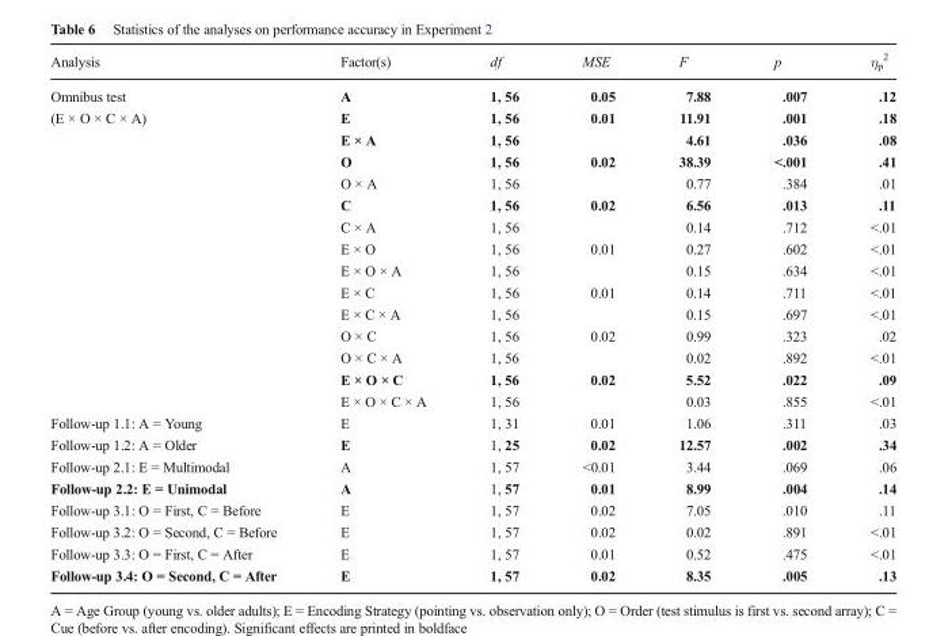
<table><thead><tr><td>Analysis</td><td>Factor(s)</td><td>df</td><td>MSE</td><td>F</td><td>p</td><td>η<sub>p</sub> <sup>2</sup></td></tr></thead><tbody><tr><td>Omnibus test</td><td>A</td><td>1, 56</td><td>0.05</td><td>7.88</td><td>.007</td><td>.12</td></tr><tr><td rowspan="14">(E × O × C × A)</td><td>E</td><td>1, 56</td><td>0.01</td><td>11.91</td><td>.001</td><td>.18</td></tr><tr><td>E × A</td><td>1, 56</td><td></td><td>4.61</td><td>.036</td><td>.08</td></tr><tr><td>O</td><td>1, 56</td><td>0.02</td><td>38.39</td><td>&lt;.001</td><td>.41</td></tr><tr><td>O × A</td><td>1, 56</td><td></td><td>0.77</td><td>.384</td><td>.01</td></tr><tr><td>C</td><td>1, 56</td><td>0.02</td><td>6.56</td><td>.013</td><td>.11</td></tr><tr><td>C × A</td><td>1, 56</td><td></td><td>0.14</td><td>.712</td><td>&lt;.01</td></tr><tr><td>E × O</td><td>1, 56</td><td>0.01</td><td>0.27</td><td>.602</td><td>&lt;.01</td></tr><tr><td>E × O × A</td><td>1, 56</td><td></td><td>0.15</td><td>.634</td><td>&lt;.01</td></tr><tr><td>E × C</td><td>1, 56</td><td>0.01</td><td>0.14</td><td>.711</td><td>&lt;.01</td></tr><tr><td>E × C × A</td><td>1, 56</td><td></td><td>0.15</td><td>.697</td><td>&lt;.01</td></tr><tr><td>O × C</td><td>1, 56</td><td>0.02</td><td>0.99</td><td>.323</td><td>.02</td></tr><tr><td>O × C × A</td><td>1, 56</td><td></td><td>0.02</td><td>.892</td><td>&lt;.01</td></tr><tr><td>E × O × C</td><td>1, 56</td><td>0.02</td><td>5.52</td><td>.022</td><td>.09</td></tr><tr><td>E × O × C × A</td><td>1, 56</td><td></td><td>0.03</td><td>.855</td><td>&lt;.01</td></tr><tr><td>Follow-up 1.1: A = Young</td><td>E</td><td>1, 31</td><td>0.01</td><td>1.06</td><td>.311</td><td>.03</td></tr><tr><td>Follow-up 1.2: A = Older</td><td>E</td><td>1, 25</td><td>0.02</td><td>12.57</td><td>.002</td><td>.34</td></tr><tr><td>Follow-up 2.1: E = Multimodal</td><td>A</td><td>1, 57</td><td>&lt;0.01</td><td>3.44</td><td>.069</td><td>.06</td></tr><tr><td>Follow-up 2.2: E = Unimodal</td><td>A</td><td>1, 57</td><td>0.01</td><td>8.99</td><td>.004</td><td>.14</td></tr><tr><td>Follow-up 3.1: O = First, C = Before</td><td>E</td><td>1, 57</td><td>0.02</td><td>7.05</td><td>.010</td><td>.11</td></tr><tr><td>Follow-up 3.2: O = Second, C = Before</td><td>E</td><td>1, 57</td><td>0.02</td><td>0.02</td><td>.891</td><td>&lt;.01</td></tr><tr><td>Follow-up 3.3: O = First, C = After</td><td>E</td><td>1, 57</td><td>0.01</td><td>0.52</td><td>.475</td><td>&lt;.01</td></tr><tr><td>Follow-up 3.4: O = Second, C = After</td><td>E</td><td>1, 57</td><td>0.02</td><td>8.35</td><td>.005</td><td>.13</td></tr></tbody></table>